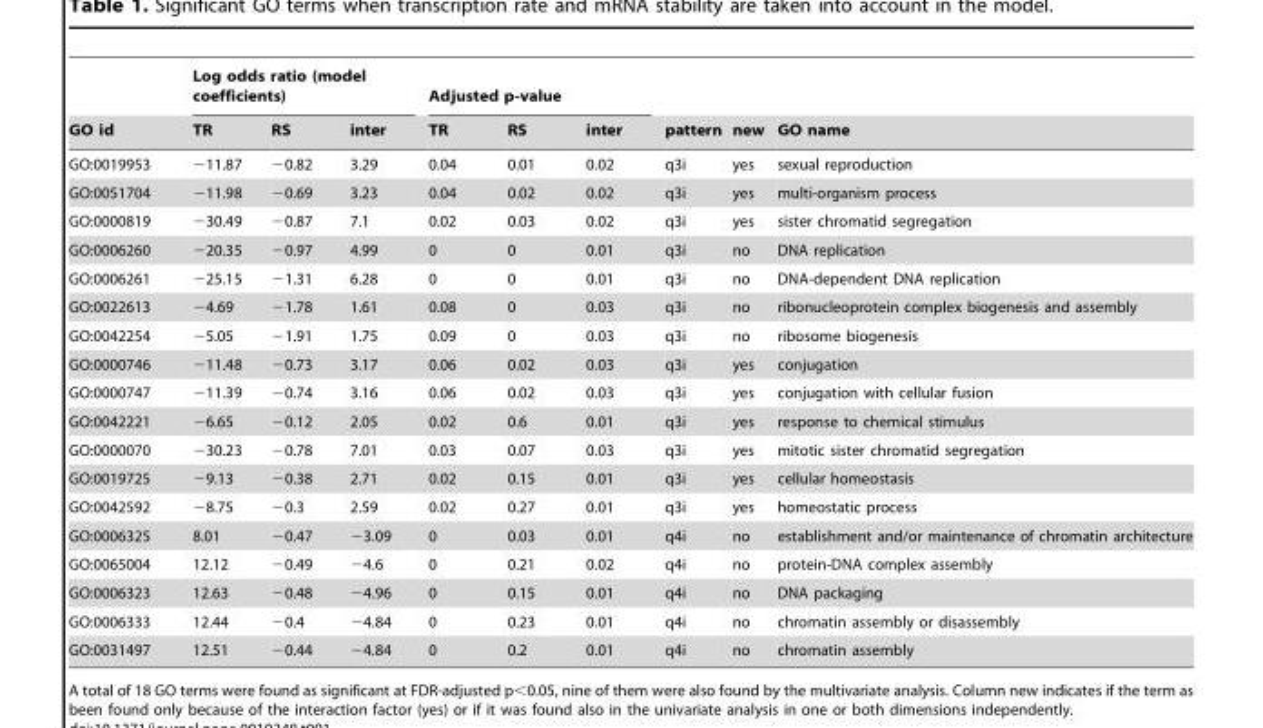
<table><thead><tr><td rowspan="2">GO id</td><td colspan="3">Log odds ratio (model coefficients)</td><td colspan="3">Adjusted p-value</td><td rowspan="2">pattern</td><td rowspan="2">new</td><td rowspan="2">GO name</td></tr><tr><td>TR</td><td>RS</td><td>inter</td><td>TR</td><td>RS</td><td>inter</td></tr></thead><tbody><tr><td>GO:0019953</td><td>−11.87</td><td>−0.82</td><td>3.29</td><td>0.04</td><td>0.01</td><td>0.02</td><td>q3i</td><td>yes</td><td>sexual reproduction</td></tr><tr><td>GO:0051704</td><td>−11.98</td><td>−0.69</td><td>3.23</td><td>0.04</td><td>0.02</td><td>0.02</td><td>q3i</td><td>yes</td><td>multi-organism process</td></tr><tr><td>GO:0000819</td><td>−30.49</td><td>−0.87</td><td>7.1</td><td>0.02</td><td>0.03</td><td>0.02</td><td>q3i</td><td>yes</td><td>sister chromatid segregation</td></tr><tr><td>GO:0006260</td><td>−20.35</td><td>−0.97</td><td>4.99</td><td>0</td><td>0</td><td>0.01</td><td>q3i</td><td>no</td><td>DNA replication</td></tr><tr><td>GO:0006261</td><td>−25.15</td><td>−1.31</td><td>6.28</td><td>0</td><td>0</td><td>0.01</td><td>q3i</td><td>no</td><td>DNA-dependent DNA replication</td></tr><tr><td>GO:0022613</td><td>−4.69</td><td>−1.78</td><td>1.61</td><td>0.08</td><td>0</td><td>0.03</td><td>q3i</td><td>no</td><td>ribonucleoprotein complex biogenesis and assembly</td></tr><tr><td>GO:0042254</td><td>−5.05</td><td>−1.91</td><td>1.75</td><td>0.09</td><td>0</td><td>0.03</td><td>q3i</td><td>no</td><td>ribosome biogenesis</td></tr><tr><td>GO:0000746</td><td>−11.48</td><td>−0.73</td><td>3.17</td><td>0.06</td><td>0.02</td><td>0.03</td><td>q3i</td><td>yes</td><td>conjugation</td></tr><tr><td>GO:0000747</td><td>−11.39</td><td>−0.74</td><td>3.16</td><td>0.06</td><td>0.02</td><td>0.03</td><td>q3i</td><td>yes</td><td>conjugation with cellular fusion</td></tr><tr><td>GO:0042221</td><td>−6.65</td><td>−0.12</td><td>2.05</td><td>0.02</td><td>0.6</td><td>0.01</td><td>q3i</td><td>yes</td><td>response to chemical stimulus</td></tr><tr><td>GO:0000070</td><td>−30.23</td><td>−0.78</td><td>7.01</td><td>0.03</td><td>0.07</td><td>0.03</td><td>q3i</td><td>yes</td><td>mitotic sister chromatid segregation</td></tr><tr><td>GO:0019725</td><td>−9.13</td><td>−0.38</td><td>2.71</td><td>0.02</td><td>0.15</td><td>0.01</td><td>q3i</td><td>yes</td><td>cellular homeostasis</td></tr><tr><td>GO:0042592</td><td>−8.75</td><td>−0.3</td><td>2.59</td><td>0.02</td><td>0.27</td><td>0.01</td><td>q3i</td><td>yes</td><td>homeostatic process</td></tr><tr><td>GO:0006325</td><td>8.01</td><td>−0.47</td><td>−3.09</td><td>0</td><td>0.03</td><td>0.01</td><td>q4i</td><td>no</td><td>establishment and/or maintenance of chromatin architecture</td></tr><tr><td>GO:0065004</td><td>12.12</td><td>−0.49</td><td>−4.6</td><td>0</td><td>0.21</td><td>0.02</td><td>q4i</td><td>no</td><td>protein-DNA complex assembly</td></tr><tr><td>GO:0006323</td><td>12.63</td><td>−0.48</td><td>−4.96</td><td>0</td><td>0.15</td><td>0.01</td><td>q4i</td><td>no</td><td>DNA packaging</td></tr><tr><td>GO:0006333</td><td>12.44</td><td>−0.4</td><td>−4.84</td><td>0</td><td>0.23</td><td>0.01</td><td>q4i</td><td>no</td><td>chromatin assembly or disassembly</td></tr><tr><td>GO:0031497</td><td>12.51</td><td>−0.44</td><td>−4.84</td><td>0</td><td>0.2</td><td>0.01</td><td>q4i</td><td>no</td><td>chromatin assembly</td></tr></tbody></table>